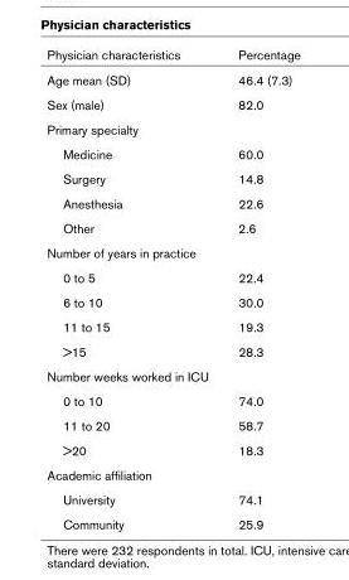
<table><thead><tr><td>Physician characteristics</td><td>Percentage</td></tr></thead><tbody><tr><td>Age mean (SD)</td><td>46.4 (7.3)</td></tr><tr><td>Sex (male)</td><td>82.0</td></tr><tr><td colspan="2">Primary specialty</td></tr><tr><td>Medicine</td><td>60.0</td></tr><tr><td>Surgery</td><td>14.8</td></tr><tr><td>Anesthesia</td><td>22.6</td></tr><tr><td>Other</td><td>2.6</td></tr><tr><td colspan="2">Number of years in practice</td></tr><tr><td>0 to 5</td><td>22.4</td></tr><tr><td>6 to 10</td><td>30.0</td></tr><tr><td>11 to 15</td><td>19.3</td></tr><tr><td>&gt;15</td><td>28.3</td></tr><tr><td colspan="2">Number weeks worked in ICU</td></tr><tr><td>0 to 10</td><td>74.0</td></tr><tr><td>11 to 20</td><td>58.7</td></tr><tr><td>&gt;20</td><td>18.3</td></tr><tr><td colspan="2">Academic affiliation</td></tr><tr><td>University</td><td>74.1</td></tr><tr><td>Community</td><td>25.9</td></tr></tbody></table>